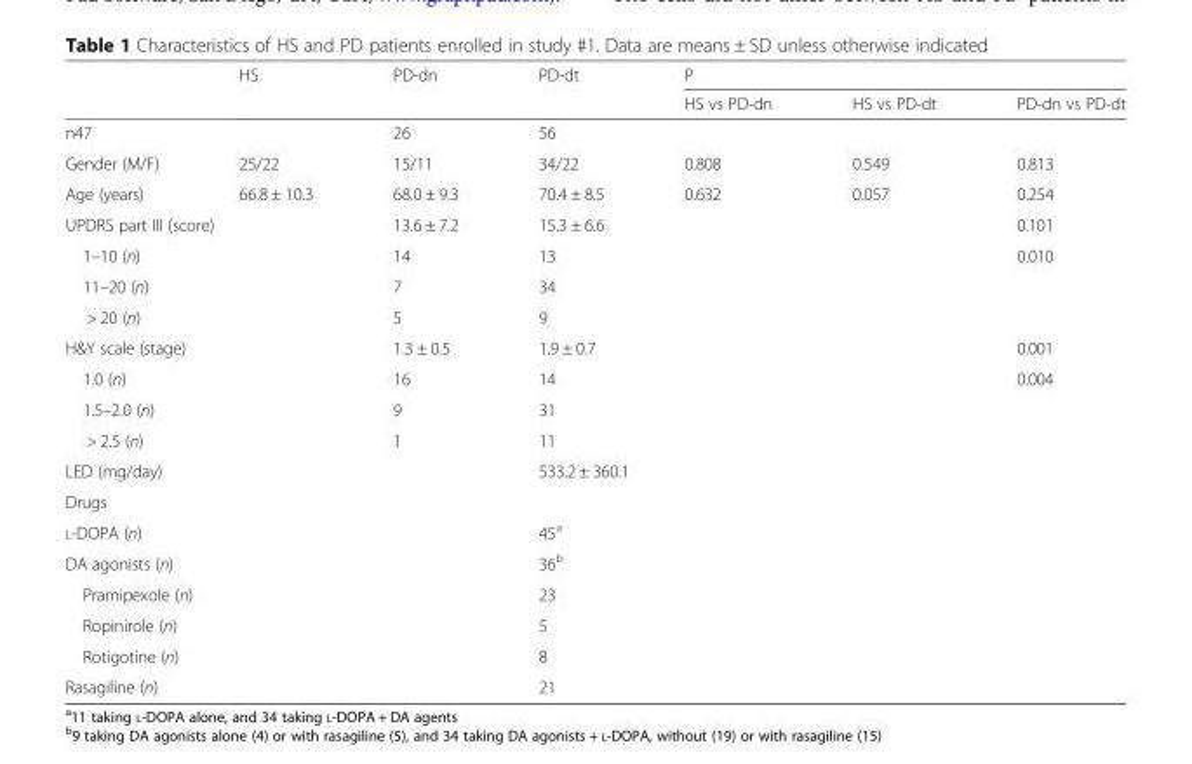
<table><thead><tr><td rowspan="2"></td><td rowspan="2">HS</td><td rowspan="2">PD-dn</td><td rowspan="2">PD-dt</td><td colspan="3">P</td></tr><tr><td>HS vs PD-dn</td><td>HS vs PD-dt</td><td>PD-dn vs PD-dt</td></tr></thead><tbody><tr><td colspan="2">n47</td><td>26</td><td colspan="4">56</td></tr><tr><td>Gender (M/F)</td><td>25/22</td><td>15/11</td><td>34/22</td><td>0.808</td><td>0.549</td><td>0.813</td></tr><tr><td>Age (years)</td><td>66.8 ± 10.3</td><td>68.0 ± 9.3</td><td>70.4 ± 8.5</td><td>0.632</td><td>0.057</td><td>0.254</td></tr><tr><td colspan="2">UPDRS part III (score)</td><td>13.6 ± 7.2</td><td colspan="3">15.3 ± 6.6</td><td>0.101</td></tr><tr><td colspan="2">1–10 (n)</td><td>14</td><td colspan="3">13</td><td>0.010</td></tr><tr><td colspan="2">11–20 (n)</td><td>7</td><td colspan="4">34</td></tr><tr><td colspan="2">&gt; 20 (n)</td><td>5</td><td colspan="4">9</td></tr><tr><td colspan="2">H&amp;Y scale (stage)</td><td>1.3 ± 0.5</td><td colspan="3">1.9 ± 0.7</td><td>0.001</td></tr><tr><td colspan="2">1.0 (n)</td><td>16</td><td colspan="3">14</td><td>0.004</td></tr><tr><td colspan="2">1.5–2.0 (n)</td><td>9</td><td colspan="4">31</td></tr><tr><td colspan="2">&gt; 2.5 (n)</td><td>1</td><td colspan="4">11</td></tr><tr><td colspan="3">LED (mg/day)</td><td colspan="4">533.2 ± 360.1</td></tr><tr><td colspan="7">Drugs</td></tr><tr><td colspan="3">L-DOPA (n)</td><td colspan="4">45<sup>a</sup></td></tr><tr><td colspan="3">DA agonists (n)</td><td colspan="4">36<sup>b</sup></td></tr><tr><td colspan="3">Pramipexole (n)</td><td colspan="4">23</td></tr><tr><td colspan="3">Ropinirole (n)</td><td colspan="4">5</td></tr><tr><td colspan="3">Rotigotine (n)</td><td colspan="4">8</td></tr><tr><td colspan="3">Rasagiline (n)</td><td colspan="4">21</td></tr></tbody></table>